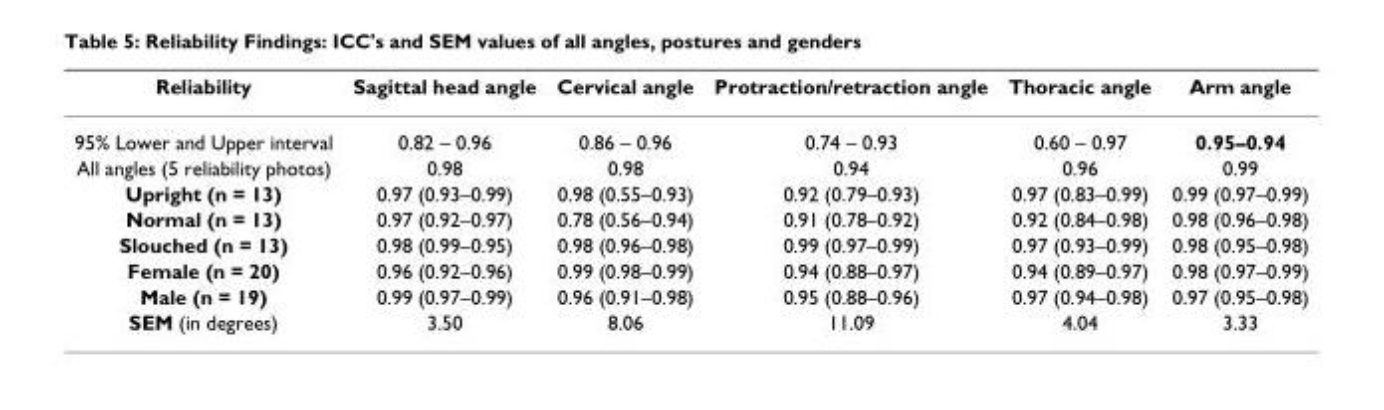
<table><thead><tr><td>Reliability</td><td>Sagittal head angle</td><td>Cervical angle</td><td>Protraction/retraction angle</td><td>Thoracic angle</td><td>Arm angle</td></tr></thead><tbody><tr><td>95% Lower and Upper interval</td><td>0.82 – 0.96</td><td>0.86 – 0.96</td><td>0.74 – 0.93</td><td>0.60 – 0.97</td><td>0.95–0.94</td></tr><tr><td>All angles (5 reliability photos)</td><td>0.98</td><td>0.98</td><td>0.94</td><td>0.96</td><td>0.99</td></tr><tr><td>Upright (n = 13)</td><td>0.97 (0.93–0.99)</td><td>0.98 (0.55–0.93)</td><td>0.92 (0.79–0.93)</td><td>0.97 (0.83–0.99)</td><td>0.99 (0.97–0.99)</td></tr><tr><td>Normal (n = 13)</td><td>0.97 (0.92–0.97)</td><td>0.78 (0.56–0.94)</td><td>0.91 (0.78–0.92)</td><td>0.92 (0.84–0.98)</td><td>0.98 (0.96–0.98)</td></tr><tr><td>Slouched (n = 13)</td><td>0.98 (0.99–0.95)</td><td>0.98 (0.96–0.98)</td><td>0.99 (0.97–0.99)</td><td>0.97 (0.93–0.99)</td><td>0.98 (0.95–0.98)</td></tr><tr><td>Female (n = 20)</td><td>0.96 (0.92–0.96)</td><td>0.99 (0.98–0.99)</td><td>0.94 (0.88–0.97)</td><td>0.94 (0.89–0.97)</td><td>0.98 (0.97–0.99)</td></tr><tr><td>Male (n = 19)</td><td>0.99 (0.97–0.99)</td><td>0.96 (0.91–0.98)</td><td>0.95 (0.88–0.96)</td><td>0.97 (0.94–0.98)</td><td>0.97 (0.95–0.98)</td></tr><tr><td>SEM (in degrees)</td><td>3.50</td><td>8.06</td><td>11.09</td><td>4.04</td><td>3.33</td></tr></tbody></table>